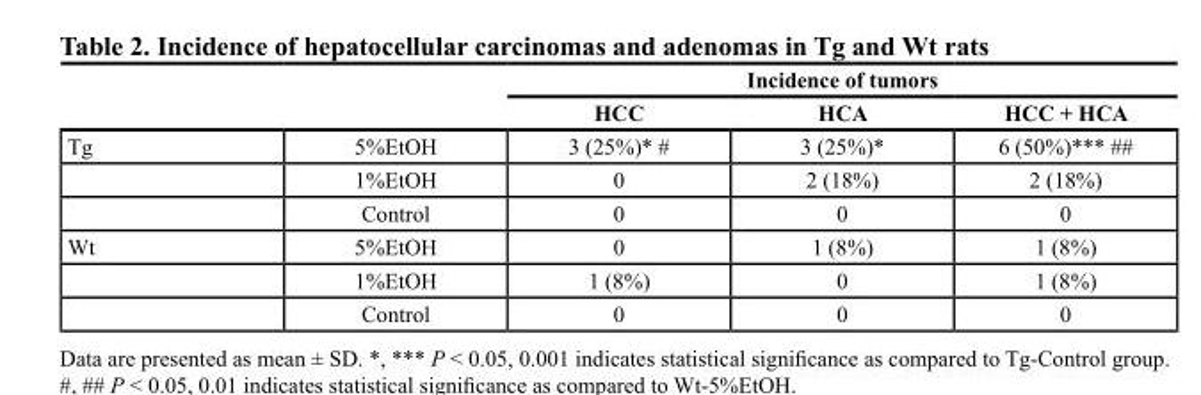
<table><thead><tr><td rowspan="2"></td><td rowspan="2"></td><td colspan="3">Incidence of tumors</td></tr><tr><td>HCC</td><td>HCA</td><td>HCC + HCA</td></tr></thead><tbody><tr><td rowspan="3">Tg</td><td>5%EtOH</td><td>3 (25%)* #</td><td>3 (25%)*</td><td>6 (50%)*** ##</td></tr><tr><td>1%EtOH</td><td>0</td><td>2 (18%)</td><td>2 (18%)</td></tr><tr><td>Control</td><td>0</td><td>0</td><td>0</td></tr><tr><td rowspan="3">Wt</td><td>5%EtOH</td><td>0</td><td>1 (8%)</td><td>1 (8%)</td></tr><tr><td>1%EtOH</td><td>1 (8%)</td><td>0</td><td>1 (8%)</td></tr><tr><td>Control</td><td>0</td><td>0</td><td>0</td></tr></tbody></table>